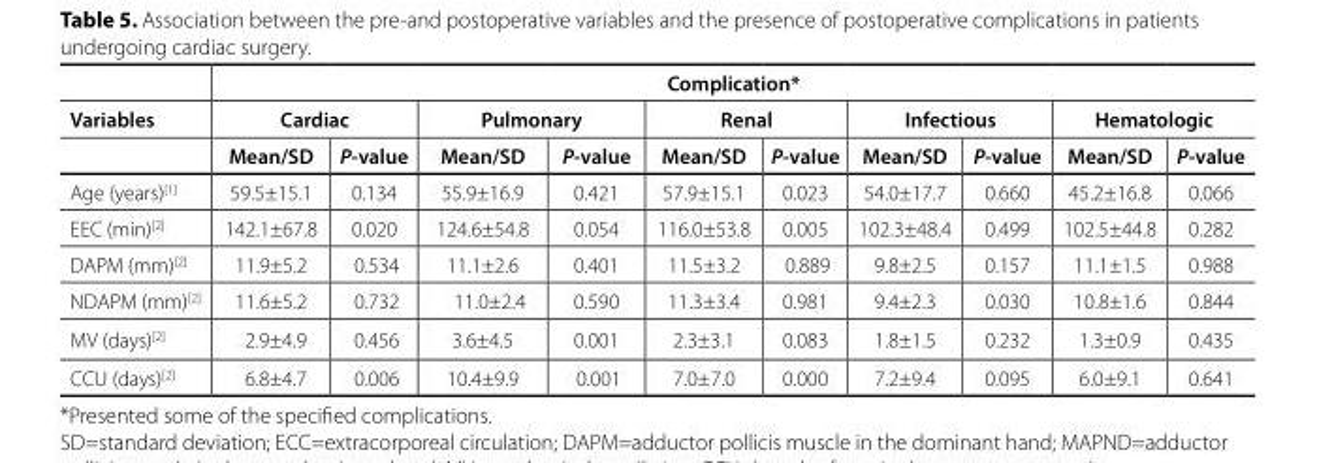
<table><thead><tr><td rowspan="3">Variables</td><td colspan="10">Complication*</td></tr><tr><td colspan="2">Cardiac</td><td colspan="2">Pulmonary</td><td colspan="2">Renal</td><td colspan="2">Infectious</td><td colspan="2">Hematologic</td></tr><tr><td>Mean/SD</td><td>P-value</td><td>Mean/SD</td><td>P-value</td><td>Mean/SD</td><td>P-value</td><td>Mean/SD</td><td>P-value</td><td>Mean/SD</td><td>P-value</td></tr></thead><tbody><tr><td>Age (years)<sup>[1]</sup></td><td>59.5±15.1</td><td>0.134</td><td>55.9±16.9</td><td>0.421</td><td>57.9±15.1</td><td>0.023</td><td>54.0±17.7</td><td>0.660</td><td>45.2±16.8</td><td>0.066</td></tr><tr><td>EEC (min)<sup>[2]</sup></td><td>142.1±67.8</td><td>0.020</td><td>124.6±54.8</td><td>0.054</td><td>116.0±53.8</td><td>0.005</td><td>102.3±48.4</td><td>0.499</td><td>102.5±44.8</td><td>0.282</td></tr><tr><td>DAPM (mm)<sup>[2]</sup></td><td>11.9±5.2</td><td>0.534</td><td>11.1±2.6</td><td>0.401</td><td>11.5±3.2</td><td>0.889</td><td>9.8±2.5</td><td>0.157</td><td>11.1±1.5</td><td>0.988</td></tr><tr><td>NDAPM (mm)<sup>[2]</sup></td><td>11.6±5.2</td><td>0.732</td><td>11.0±2.4</td><td>0.590</td><td>11.3±3.4</td><td>0.981</td><td>9.4±2.3</td><td>0.030</td><td>10.8±1.6</td><td>0.844</td></tr><tr><td>MV (days)<sup>[2]</sup></td><td>2.9±4.9</td><td>0.456</td><td>3.6±4.5</td><td>0.001</td><td>2.3±3.1</td><td>0.083</td><td>1.8±1.5</td><td>0.232</td><td>1.3±0.9</td><td>0.435</td></tr><tr><td>CCU (days)<sup>[2]</sup></td><td>6.8±4.7</td><td>0.006</td><td>10.4±9.9</td><td>0.001</td><td>7.0±7.0</td><td>0.000</td><td>7.2±9.4</td><td>0.095</td><td>6.0±9.1</td><td>0.641</td></tr></tbody></table>